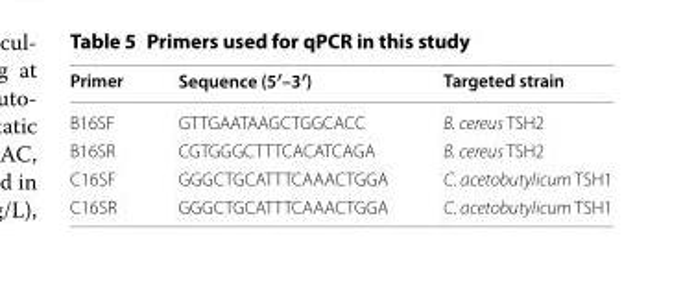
<table><thead><tr><td>Primer</td><td>Sequence (5′–3′)</td><td>Targeted strain</td></tr></thead><tbody><tr><td>B16SF</td><td>GTTGAATAAGCTGGCACC</td><td>B. cereus TSH2</td></tr><tr><td>B16SR</td><td>CGTGGGCTTTCACATCAGA</td><td>B. cereus TSH2</td></tr><tr><td>C16SF</td><td>GGGCTGCATTTCAAACTGGA</td><td>C. acetobutylicum TSH1</td></tr><tr><td>C16SR</td><td>GGGCTGCATTTCAAACTGGA</td><td>C. acetobutylicum TSH1</td></tr></tbody></table>